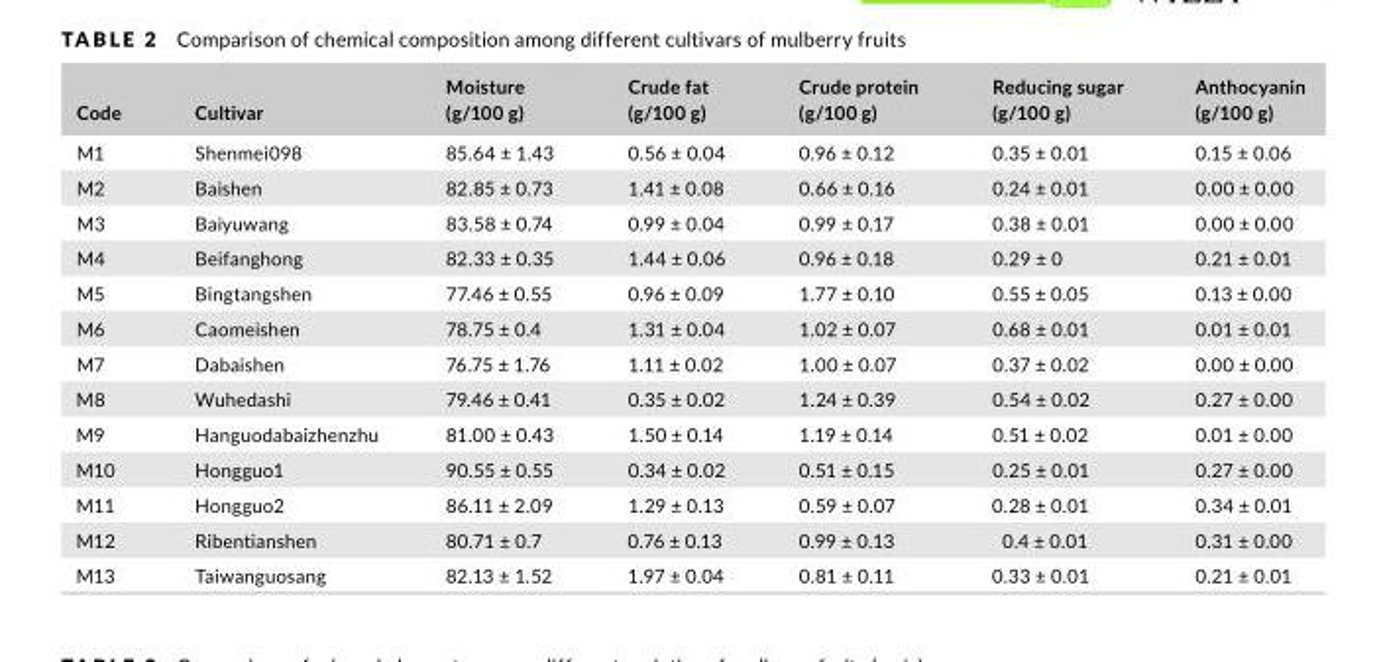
<table><thead><tr><td>Code</td><td>Cultivar</td><td>Moisture (g/100 g)</td><td>Crude fat (g/100 g)</td><td>Crude protein (g/100 g)</td><td>Reducing sugar (g/100 g)</td><td>Anthocyanin (g/100 g)</td></tr></thead><tbody><tr><td>M1</td><td>Shenmei098</td><td>85.64 ± 1.43</td><td>0.56 ± 0.04</td><td>0.96 ± 0.12</td><td>0.35 ± 0.01</td><td>0.15 ± 0.06</td></tr><tr><td>M2</td><td>Baishen</td><td>82.85 ± 0.73</td><td>1.41 ± 0.08</td><td>0.66 ± 0.16</td><td>0.24 ± 0.01</td><td>0.00 ± 0.00</td></tr><tr><td>M3</td><td>Baiyuwang</td><td>83.58 ± 0.74</td><td>0.99 ± 0.04</td><td>0.99 ± 0.17</td><td>0.38 ± 0.01</td><td>0.00 ± 0.00</td></tr><tr><td>M4</td><td>Beifanghong</td><td>82.33 ± 0.35</td><td>1.44 ± 0.06</td><td>0.96 ± 0.18</td><td>0.29 ± 0</td><td>0.21 ± 0.01</td></tr><tr><td>M5</td><td>Bingtangshen</td><td>77.46 ± 0.55</td><td>0.96 ± 0.09</td><td>1.77 ± 0.10</td><td>0.55 ± 0.05</td><td>0.13 ± 0.00</td></tr><tr><td>M6</td><td>Caomeishen</td><td>78.75 ± 0.4</td><td>1.31 ± 0.04</td><td>1.02 ± 0.07</td><td>0.68 ± 0.01</td><td>0.01 ± 0.01</td></tr><tr><td>M7</td><td>Dabaishen</td><td>76.75 ± 1.76</td><td>1.11 ± 0.02</td><td>1.00 ± 0.07</td><td>0.37 ± 0.02</td><td>0.00 ± 0.00</td></tr><tr><td>M8</td><td>Wuhedashi</td><td>79.46 ± 0.41</td><td>0.35 ± 0.02</td><td>1.24 ± 0.39</td><td>0.54 ± 0.02</td><td>0.27 ± 0.00</td></tr><tr><td>M9</td><td>Hanguodabaizhenzhu</td><td>81.00 ± 0.43</td><td>1.50 ± 0.14</td><td>1.19 ± 0.14</td><td>0.51 ± 0.02</td><td>0.01 ± 0.00</td></tr><tr><td>M10</td><td>Hongguo1</td><td>90.55 ± 0.55</td><td>0.34 ± 0.02</td><td>0.51 ± 0.15</td><td>0.25 ± 0.01</td><td>0.27 ± 0.00</td></tr><tr><td>M11</td><td>Hongguo2</td><td>86.11 ± 2.09</td><td>1.29 ± 0.13</td><td>0.59 ± 0.07</td><td>0.28 ± 0.01</td><td>0.34 ± 0.01</td></tr><tr><td>M12</td><td>Ribentianshen</td><td>80.71 ± 0.7</td><td>0.76 ± 0.13</td><td>0.99 ± 0.13</td><td>0.4 ± 0.01</td><td>0.31 ± 0.00</td></tr><tr><td>M13</td><td>Taiwanguosang</td><td>82.13 ± 1.52</td><td>1.97 ± 0.04</td><td>0.81 ± 0.11</td><td>0.33 ± 0.01</td><td>0.21 ± 0.01</td></tr></tbody></table>